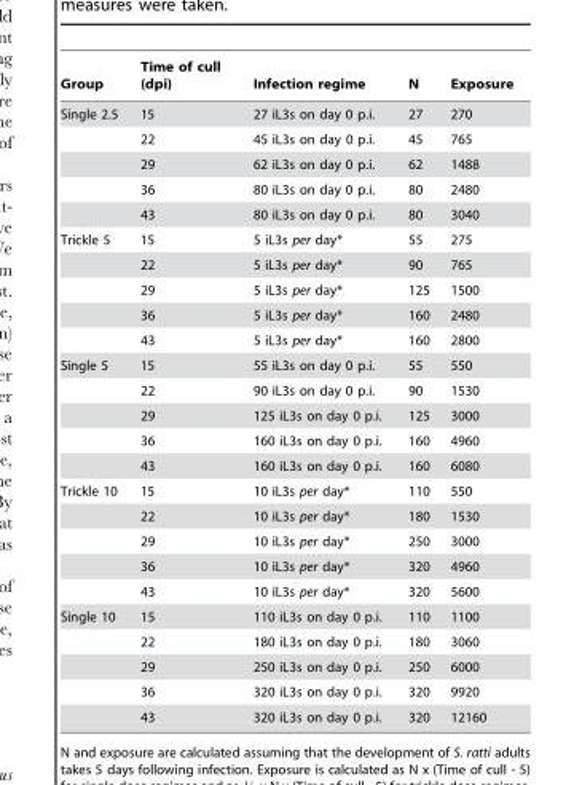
<table><thead><tr><td>Group</td><td>Time of cull (dpi)</td><td>Infection regime</td><td>N</td><td>Exposure</td></tr></thead><tbody><tr><td rowspan="5">Single 2.5</td><td>15</td><td>27 iL3s on day 0 p.i.</td><td>27</td><td>270</td></tr><tr><td>22</td><td>45 iL3s on day 0 p.i.</td><td>45</td><td>765</td></tr><tr><td>29</td><td>62 iL3s on day 0 p.i.</td><td>62</td><td>1488</td></tr><tr><td>36</td><td>80 iL3s on day 0 p.i.</td><td>80</td><td>2480</td></tr><tr><td>43</td><td>80 iL3s on day 0 p.i.</td><td>80</td><td>3040</td></tr><tr><td rowspan="5">Trickle 5</td><td>15</td><td>5 iL3s per day*</td><td>55</td><td>275</td></tr><tr><td>22</td><td>5 iL3s per day*</td><td>90</td><td>765</td></tr><tr><td>29</td><td>5 iL3s per day*</td><td>125</td><td>1500</td></tr><tr><td>36</td><td>5 iL3s per day*</td><td>160</td><td>2480</td></tr><tr><td>43</td><td>5 iL3s per day*</td><td>160</td><td>2800</td></tr><tr><td rowspan="5">Single 5</td><td>15</td><td>55 iL3s on day 0 p.i.</td><td>55</td><td>550</td></tr><tr><td>22</td><td>90 iL3s on day 0 p.i.</td><td>90</td><td>1530</td></tr><tr><td>29</td><td>125 iL3s on day 0 p.i.</td><td>125</td><td>3000</td></tr><tr><td>36</td><td>160 iL3s on day 0 p.i.</td><td>160</td><td>4960</td></tr><tr><td>43</td><td>160 iL3s on day 0 p.i.</td><td>160</td><td>6080</td></tr><tr><td rowspan="5">Trickle 10</td><td>15</td><td>10 iL3s per day*</td><td>110</td><td>550</td></tr><tr><td>22</td><td>10 iL3s per day*</td><td>180</td><td>1530</td></tr><tr><td>29</td><td>10 iL3s per day*</td><td>250</td><td>3000</td></tr><tr><td>36</td><td>10 iL3s per day*</td><td>320</td><td>4960</td></tr><tr><td>43</td><td>10 iL3s per day*</td><td>320</td><td>5600</td></tr><tr><td rowspan="5">Single 10</td><td>15</td><td>110 iL3s on day 0 p.i.</td><td>110</td><td>1100</td></tr><tr><td>22</td><td>180 iL3s on day 0 p.i.</td><td>180</td><td>3060</td></tr><tr><td>29</td><td>250 iL3s on day 0 p.i.</td><td>250</td><td>6000</td></tr><tr><td>36</td><td>320 iL3s on day 0 p.i.</td><td>320</td><td>9920</td></tr><tr><td>43</td><td>320 iL3s on day 0 p.i.</td><td>320</td><td>12160</td></tr></tbody></table>